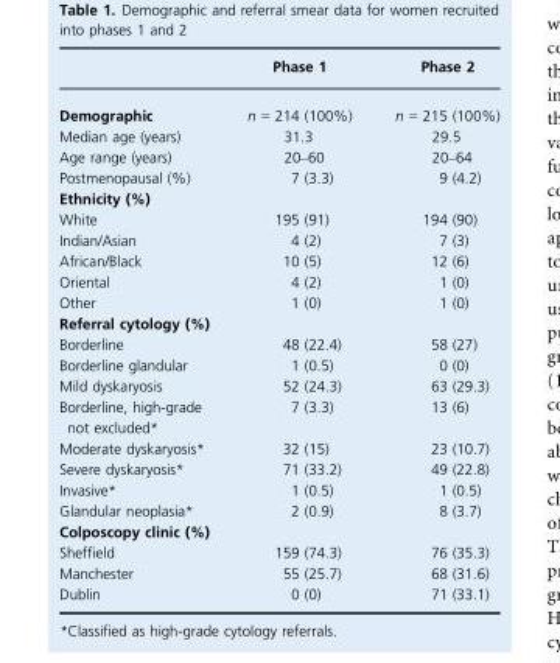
<table><thead><tr><td></td><td>Phase 1</td><td>Phase 2</td></tr></thead><tbody><tr><td>Demographic</td><td>n = 214 (100%)</td><td>n = 215 (100%)</td></tr><tr><td>Median age (years)</td><td>31.3</td><td>29.5</td></tr><tr><td>Age range (years)</td><td>20–60</td><td>20–64</td></tr><tr><td>Postmenopausal (%)</td><td>7 (3.3)</td><td>9 (4.2)</td></tr><tr><td colspan="3">Ethnicity (%)</td></tr><tr><td>White</td><td>195 (91)</td><td>194 (90)</td></tr><tr><td>Indian/Asian</td><td>4 (2)</td><td>7 (3)</td></tr><tr><td>African/Black</td><td>10 (5)</td><td>12 (6)</td></tr><tr><td>Oriental</td><td>4 (2)</td><td>1 (0)</td></tr><tr><td>Other</td><td>1 (0)</td><td>1 (0)</td></tr><tr><td colspan="3">Referral cytology (%)</td></tr><tr><td>Borderline</td><td>48 (22.4)</td><td>58 (27)</td></tr><tr><td>Borderline glandular</td><td>1 (0.5)</td><td>0 (0)</td></tr><tr><td>Mild dyskaryosis</td><td>52 (24.3)</td><td>63 (29.3)</td></tr><tr><td>Borderline, high-grade not excluded*</td><td>7 (3.3)</td><td>13 (6)</td></tr><tr><td>Moderate dyskaryosis*</td><td>32 (15)</td><td>23 (10.7)</td></tr><tr><td>Severe dyskaryosis*</td><td>71 (33.2)</td><td>49 (22.8)</td></tr><tr><td>Invasive*</td><td>1 (0.5)</td><td>1 (0.5)</td></tr><tr><td>Glandular neoplasia*</td><td>2 (0.9)</td><td>8 (3.7)</td></tr><tr><td colspan="3">Colposcopy clinic (%)</td></tr><tr><td>Sheffield</td><td>159 (74.3)</td><td>76 (35.3)</td></tr><tr><td>Manchester</td><td>55 (25.7)</td><td>68 (31.6)</td></tr><tr><td>Dublin</td><td>0 (0)</td><td>71 (33.1)</td></tr></tbody></table>